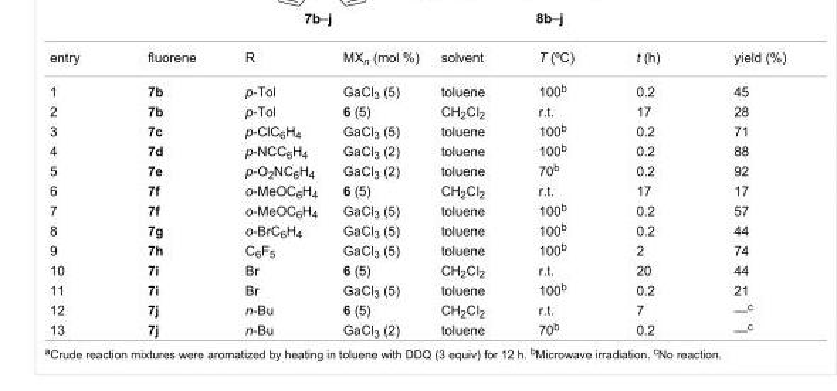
<table><tbody><tr><td>entry</td><td>fluorene</td><td>R</td><td>MX<sub>n</sub> (mol %)</td><td>solvent</td><td>T (ºC)</td><td>t (h)</td><td>yield (%)</td></tr><tr><td>1</td><td>7b</td><td>p-Tol</td><td>GaCl<sub>3</sub> (5)</td><td>toluene</td><td>100<sup>b</sup></td><td>0.2</td><td>45</td></tr><tr><td>2</td><td>7b</td><td>p-Tol</td><td>6 (5)</td><td>CH<sub>2</sub>Cl<sub>2</sub></td><td>r.t.</td><td>17</td><td>28</td></tr><tr><td>3</td><td>7c</td><td>p-ClC<sub>6</sub>H<sub>4</sub></td><td>GaCl<sub>3</sub> (5)</td><td>toluene</td><td>100<sup>b</sup></td><td>0.2</td><td>71</td></tr><tr><td>4</td><td>7d</td><td>p-NCC<sub>6</sub>H<sub>4</sub></td><td>GaCl<sub>3</sub> (2)</td><td>toluene</td><td>100<sup>b</sup></td><td>0.2</td><td>88</td></tr><tr><td>5</td><td>7e</td><td>p-O<sub>2</sub>NC<sub>6</sub>H<sub>4</sub></td><td>GaCl<sub>3</sub> (2)</td><td>toluene</td><td>70<sup>b</sup></td><td>0.2</td><td>92</td></tr><tr><td>6</td><td>7f</td><td>o-MeOC<sub>6</sub>H<sub>4</sub></td><td>6 (5)</td><td>CH<sub>2</sub>Cl<sub>2</sub></td><td>r.t.</td><td>17</td><td>17</td></tr><tr><td>7</td><td>7f</td><td>o-MeOC<sub>6</sub>H<sub>4</sub></td><td>GaCl<sub>3</sub> (5)</td><td>toluene</td><td>100<sup>b</sup></td><td>0.2</td><td>57</td></tr><tr><td>8</td><td>7g</td><td>o-BrC<sub>6</sub>H<sub>4</sub></td><td>GaCl<sub>3</sub> (5)</td><td>toluene</td><td>100<sup>b</sup></td><td>0.2</td><td>44</td></tr><tr><td>9</td><td>7h</td><td>C<sub>6</sub>F<sub>5</sub></td><td>GaCl<sub>3</sub> (5)</td><td>toluene</td><td>100<sup>b</sup></td><td>2</td><td>74</td></tr><tr><td>10</td><td>7i</td><td>Br</td><td>6 (5)</td><td>CH<sub>2</sub>Cl<sub>2</sub></td><td>r.t.</td><td>20</td><td>44</td></tr><tr><td>11</td><td>7i</td><td>Br</td><td>GaCl<sub>3</sub> (5)</td><td>toluene</td><td>100<sup>b</sup></td><td>0.2</td><td>21</td></tr><tr><td>12</td><td>7j</td><td>n-Bu</td><td>6 (5)</td><td>CH<sub>2</sub>Cl<sub>2</sub></td><td>r.t.</td><td>7</td><td>—<sup>c</sup></td></tr><tr><td>13</td><td>7j</td><td>n-Bu</td><td>GaCl<sub>3</sub> (2)</td><td>toluene</td><td>70<sup>b</sup></td><td>0.2</td><td>—<sup>c</sup></td></tr></tbody></table>